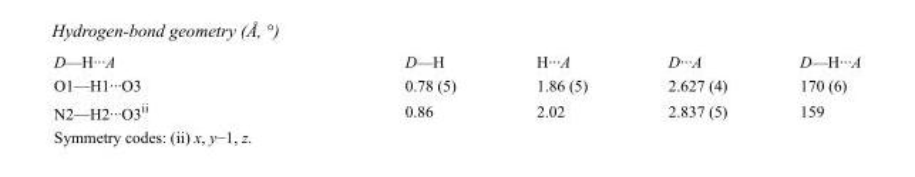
<table><tbody><tr><td>D—H···A</td><td>D—H</td><td>H···A</td><td>D···A</td><td>D—H···A</td></tr><tr><td>O1—H1···O3</td><td>0.78 (5)</td><td>1.86 (5)</td><td>2.627 (4)</td><td>170 (6)</td></tr><tr><td>N2—H2···O3<sup>ii</sup></td><td>0.86</td><td>2.02</td><td>2.837 (5)</td><td>159</td></tr></tbody></table>